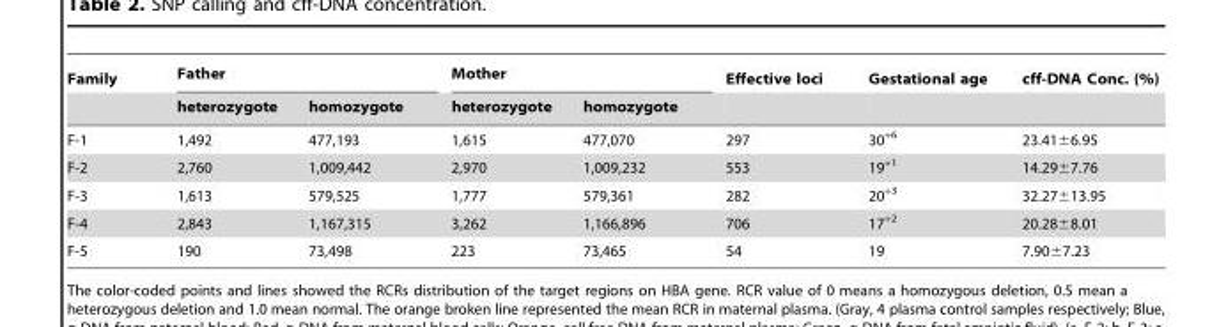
<table><thead><tr><td rowspan="2">Family</td><td colspan="2">Father</td><td colspan="2">Mother</td><td rowspan="2">Effective loci</td><td rowspan="2">Gestational age</td><td rowspan="2">cff-DNA Conc. (%)</td></tr><tr><td>heterozygote</td><td>homozygote</td><td>heterozygote</td><td>homozygote</td></tr></thead><tbody><tr><td>F-1</td><td>1,492</td><td>477,193</td><td>1,615</td><td>477,070</td><td>297</td><td>30<sup>+6</sup></td><td>23.41±6.95</td></tr><tr><td>F-2</td><td>2,760</td><td>1,009,442</td><td>2,970</td><td>1,009,232</td><td>553</td><td>19<sup>+1</sup></td><td>14.29±7.76</td></tr><tr><td>F-3</td><td>1,613</td><td>579,525</td><td>1,777</td><td>579,361</td><td>282</td><td>20<sup>+3</sup></td><td>32.27±13.95</td></tr><tr><td>F-4</td><td>2,843</td><td>1,167,315</td><td>3,262</td><td>1,166,896</td><td>706</td><td>17<sup>+2</sup></td><td>20.28±8.01</td></tr><tr><td>F-5</td><td>190</td><td>73,498</td><td>223</td><td>73,465</td><td>54</td><td>19</td><td>7.90±7.23</td></tr></tbody></table>